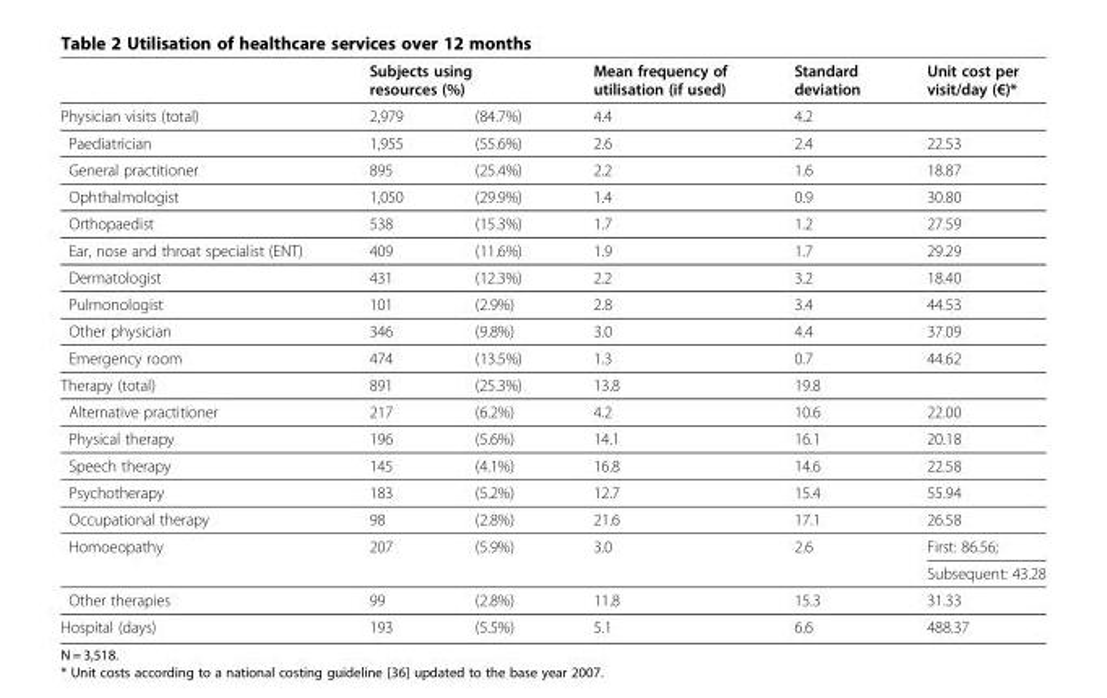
<table><thead><tr><td rowspan="2">Physician visits (total)</td><td colspan="2">Subjects using resources (%)</td><td rowspan="2">Mean frequency of utilisation (if used) 4.4</td><td rowspan="2">Standard deviation 4.2</td><td rowspan="2">Unit cost per visit/day (€)*</td></tr><tr><td>2,979</td><td>(84.7%)</td></tr></thead><tbody><tr><td>Paediatrician</td><td>1,955</td><td>(55.6%)</td><td>2.6</td><td>2.4</td><td>22.53</td></tr><tr><td>General practitioner</td><td>895</td><td>(25.4%)</td><td>2.2</td><td>1.6</td><td>18.87</td></tr><tr><td>Ophthalmologist</td><td>1,050</td><td>(29.9%)</td><td>1.4</td><td>0.9</td><td>30.80</td></tr><tr><td>Orthopaedist</td><td>538</td><td>(15.3%)</td><td>1.7</td><td>1.2</td><td>27.59</td></tr><tr><td>Ear, nose and throat specialist (ENT)</td><td>409</td><td>(11.6%)</td><td>1.9</td><td>1.7</td><td>29.29</td></tr><tr><td>Dermatologist</td><td>431</td><td>(12.3%)</td><td>2.2</td><td>3.2</td><td>18.40</td></tr><tr><td>Pulmonologist</td><td>101</td><td>(2.9%)</td><td>2.8</td><td>3.4</td><td>44.53</td></tr><tr><td>Other physician</td><td>346</td><td>(9.8%)</td><td>3.0</td><td>4.4</td><td>37.09</td></tr><tr><td>Emergency room</td><td>474</td><td>(13.5%)</td><td>1.3</td><td>0.7</td><td>44.62</td></tr><tr><td>Therapy (total)</td><td>891</td><td>(25.3%)</td><td>13.8</td><td>19.8</td><td></td></tr><tr><td>Alternative practitioner</td><td>217</td><td>(6.2%)</td><td>4.2</td><td>10.6</td><td>22.00</td></tr><tr><td>Physical therapy</td><td>196</td><td>(5.6%)</td><td>14.1</td><td>16.1</td><td>20.18</td></tr><tr><td>Speech therapy</td><td>145</td><td>(4.1%)</td><td>16.8</td><td>14.6</td><td>22.58</td></tr><tr><td>Psychotherapy</td><td>183</td><td>(5.2%)</td><td>12.7</td><td>15.4</td><td>55.94</td></tr><tr><td>Occupational therapy</td><td>98</td><td>(2.8%)</td><td>21.6</td><td>17.1</td><td>26.58</td></tr><tr><td rowspan="2">Homoeopathy</td><td>207</td><td>(5.9%)</td><td>3.0</td><td>2.6</td><td>First: 86.56;</td></tr><tr><td></td><td></td><td></td><td></td><td>Subsequent: 43.28</td></tr><tr><td>Other therapies</td><td>99</td><td>(2.8%)</td><td>11.8</td><td>15.3</td><td>31.33</td></tr><tr><td>Hospital (days)</td><td>193</td><td>(5.5%)</td><td>5.1</td><td>6.6</td><td>488.37</td></tr></tbody></table>